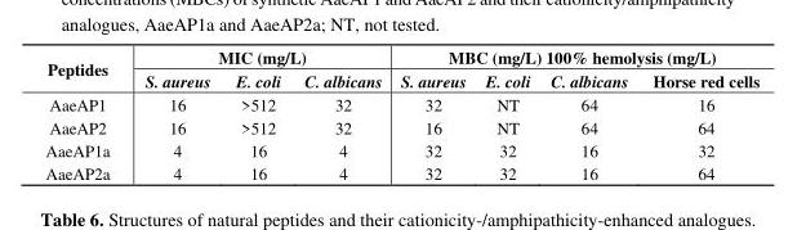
<table><thead><tr><td rowspan="2">Peptides</td><td colspan="3">MIC (mg/L)</td><td colspan="4">MBC (mg/L) 100% hemolysis (mg/L)</td></tr><tr><td>S. aureus</td><td>E. coli</td><td>C. albicans</td><td>S. aureus</td><td>E. coli</td><td>C. albicans</td><td>Horse red cells</td></tr></thead><tbody><tr><td>AaeAP1</td><td>16</td><td>&gt;512</td><td>32</td><td>32</td><td>NT</td><td>64</td><td>16</td></tr><tr><td>AaeAP2</td><td>16</td><td>&gt;512</td><td>32</td><td>16</td><td>NT</td><td>64</td><td>64</td></tr><tr><td>AaeAP1a</td><td>4</td><td>16</td><td>4</td><td>32</td><td>32</td><td>16</td><td>32</td></tr><tr><td>AaeAP2a</td><td>4</td><td>16</td><td>4</td><td>32</td><td>32</td><td>16</td><td>64</td></tr></tbody></table>